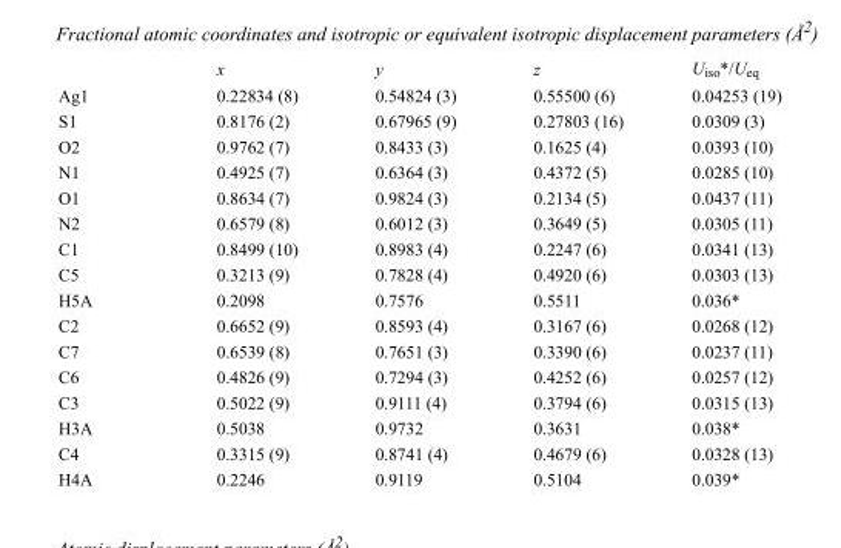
<table><thead><tr><td></td><td>x</td><td>y</td><td>z</td><td>U<sub>iso</sub>*/U<sub>eq</sub></td></tr></thead><tbody><tr><td>Ag1</td><td>0.22834 (8)</td><td>0.54824 (3)</td><td>0.55500 (6)</td><td>0.04253 (19)</td></tr><tr><td>S1</td><td>0.8176 (2)</td><td>0.67965 (9)</td><td>0.27803 (16)</td><td>0.0309 (3)</td></tr><tr><td>O2</td><td>0.9762 (7)</td><td>0.8433 (3)</td><td>0.1625 (4)</td><td>0.0393 (10)</td></tr><tr><td>N1</td><td>0.4925 (7)</td><td>0.6364 (3)</td><td>0.4372 (5)</td><td>0.0285 (10)</td></tr><tr><td>O1</td><td>0.8634 (7)</td><td>0.9824 (3)</td><td>0.2134 (5)</td><td>0.0437 (11)</td></tr><tr><td>N2</td><td>0.6579 (8)</td><td>0.6012 (3)</td><td>0.3649 (5)</td><td>0.0305 (11)</td></tr><tr><td>C1</td><td>0.8499 (10)</td><td>0.8983 (4)</td><td>0.2247 (6)</td><td>0.0341 (13)</td></tr><tr><td>C5</td><td>0.3213 (9)</td><td>0.7828 (4)</td><td>0.4920 (6)</td><td>0.0303 (13)</td></tr><tr><td>H5A</td><td>0.2098</td><td>0.7576</td><td>0.5511</td><td>0.036*</td></tr><tr><td>C2</td><td>0.6652 (9)</td><td>0.8593 (4)</td><td>0.3167 (6)</td><td>0.0268 (12)</td></tr><tr><td>C7</td><td>0.6539 (8)</td><td>0.7651 (3)</td><td>0.3390 (6)</td><td>0.0237 (11)</td></tr><tr><td>C6</td><td>0.4826 (9)</td><td>0.7294 (3)</td><td>0.4252 (6)</td><td>0.0257 (12)</td></tr><tr><td>C3</td><td>0.5022 (9)</td><td>0.9111 (4)</td><td>0.3794 (6)</td><td>0.0315 (13)</td></tr><tr><td>H3A</td><td>0.5038</td><td>0.9732</td><td>0.3631</td><td>0.038*</td></tr><tr><td>C4</td><td>0.3315 (9)</td><td>0.8741 (4)</td><td>0.4679 (6)</td><td>0.0328 (13)</td></tr><tr><td>H4A</td><td>0.2246</td><td>0.9119</td><td>0.5104</td><td>0.039*</td></tr></tbody></table>